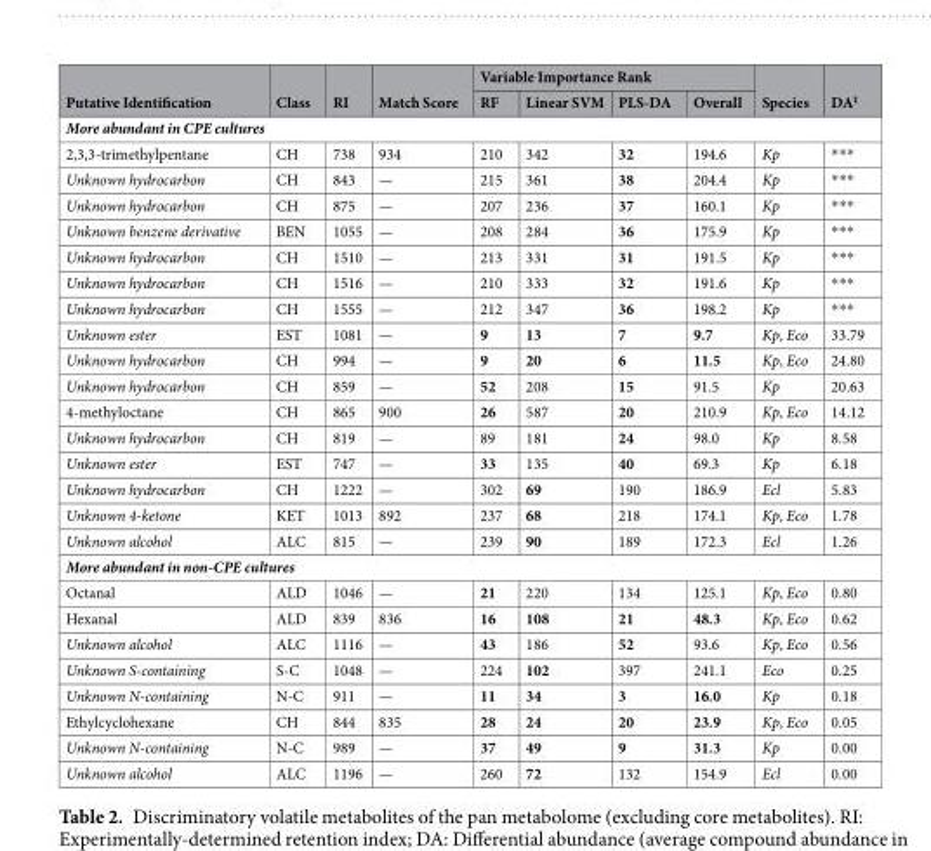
<table><thead><tr><td rowspan="2">Putative Identification</td><td rowspan="2">Class</td><td rowspan="2">RI</td><td rowspan="2">Match Score</td><td colspan="4">Variable Importance Rank</td><td rowspan="2">Species</td><td rowspan="2">DA<sup>‡</sup></td></tr><tr><td>RF</td><td>Linear SVM</td><td>PLS-DA</td><td>Overall</td></tr></thead><tbody><tr><td colspan="10">More abundant in CPE cultures</td></tr><tr><td>2,3,3-trimethylpentane</td><td>CH</td><td>738</td><td>934</td><td>210</td><td>342</td><td>32</td><td>194.6</td><td>Kp</td><td>***</td></tr><tr><td>Unknown hydrocarbon</td><td>CH</td><td>843</td><td>—</td><td>215</td><td>361</td><td>38</td><td>204.4</td><td>Kp</td><td>***</td></tr><tr><td>Unknown hydrocarbon</td><td>CH</td><td>875</td><td>—</td><td>207</td><td>236</td><td>37</td><td>160.1</td><td>Kp</td><td>***</td></tr><tr><td>Unknown benzene derivative</td><td>BEN</td><td>1055</td><td>—</td><td>208</td><td>284</td><td>36</td><td>175.9</td><td>Kp</td><td>***</td></tr><tr><td>Unknown hydrocarbon</td><td>CH</td><td>1510</td><td>—</td><td>213</td><td>331</td><td>31</td><td>191.5</td><td>Kp</td><td>***</td></tr><tr><td>Unknown hydrocarbon</td><td>CH</td><td>1516</td><td>—</td><td>210</td><td>333</td><td>32</td><td>191.6</td><td>Kp</td><td>***</td></tr><tr><td>Unknown hydrocarbon</td><td>CH</td><td>1555</td><td>—</td><td>212</td><td>347</td><td>36</td><td>198.2</td><td>Kp</td><td>***</td></tr><tr><td>Unknown ester</td><td>EST</td><td>1081</td><td>—</td><td>9</td><td>13</td><td>7</td><td>9.7</td><td>Kp, Eco</td><td>33.79</td></tr><tr><td>Unknown hydrocarbon</td><td>CH</td><td>994</td><td>—</td><td>9</td><td>20</td><td>6</td><td>11.5</td><td>Kp, Eco</td><td>24.80</td></tr><tr><td>Unknown hydrocarbon</td><td>CH</td><td>859</td><td>—</td><td>52</td><td>208</td><td>15</td><td>91.5</td><td>Kp</td><td>20.63</td></tr><tr><td>4-methyloctane</td><td>CH</td><td>865</td><td>900</td><td>26</td><td>587</td><td>20</td><td>210.9</td><td>Kp, Eco</td><td>14.12</td></tr><tr><td>Unknown hydrocarbon</td><td>CH</td><td>819</td><td>—</td><td>89</td><td>181</td><td>24</td><td>98.0</td><td>Kp</td><td>8.58</td></tr><tr><td>Unknown ester</td><td>EST</td><td>747</td><td>—</td><td>33</td><td>135</td><td>40</td><td>69.3</td><td>Kp</td><td>6.18</td></tr><tr><td>Unknown hydrocarbon</td><td>CH</td><td>1222</td><td>—</td><td>302</td><td>69</td><td>190</td><td>186.9</td><td>Ecl</td><td>5.83</td></tr><tr><td>Unknown 4-ketone</td><td>KET</td><td>1013</td><td>892</td><td>237</td><td>68</td><td>218</td><td>174.1</td><td>Kp, Eco</td><td>1.78</td></tr><tr><td>Unknown alcohol</td><td>ALC</td><td>815</td><td>—</td><td>239</td><td>90</td><td>189</td><td>172.3</td><td>Ecl</td><td>1.26</td></tr><tr><td colspan="10">More abundant in non-CPE cultures</td></tr><tr><td>Octanal</td><td>ALD</td><td>1046</td><td>—</td><td>21</td><td>220</td><td>134</td><td>125.1</td><td>Kp, Eco</td><td>0.80</td></tr><tr><td>Hexanal</td><td>ALD</td><td>839</td><td>836</td><td>16</td><td>108</td><td>21</td><td>48.3</td><td>Kp, Eco</td><td>0.62</td></tr><tr><td>Unknown alcohol</td><td>ALC</td><td>1116</td><td>—</td><td>43</td><td>186</td><td>52</td><td>93.6</td><td>Kp, Eco</td><td>0.56</td></tr><tr><td>Unknown S-containing</td><td>S-C</td><td>1048</td><td>—</td><td>224</td><td>102</td><td>397</td><td>241.1</td><td>Eco</td><td>0.25</td></tr><tr><td>Unknown N-containing</td><td>N-C</td><td>911</td><td>—</td><td>11</td><td>34</td><td>3</td><td>16.0</td><td>Kp</td><td>0.18</td></tr><tr><td>Ethylcyclohexane</td><td>CH</td><td>844</td><td>835</td><td>28</td><td>24</td><td>20</td><td>23.9</td><td>Kp, Eco</td><td>0.05</td></tr><tr><td>Unknown N-containing</td><td>N-C</td><td>989</td><td>—</td><td>37</td><td>49</td><td>9</td><td>31.3</td><td>Kp</td><td>0.00</td></tr><tr><td>Unknown alcohol</td><td>ALC</td><td>1196</td><td>—</td><td>260</td><td>72</td><td>132</td><td>154.9</td><td>Ecl</td><td>0.00</td></tr></tbody></table>